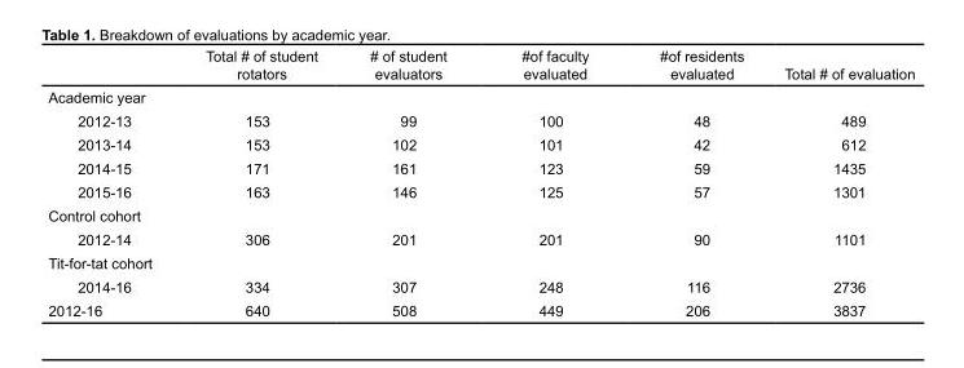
<table><thead><tr><td></td><td>Total # of student rotators</td><td># of student evaluators</td><td>#of faculty evaluated</td><td>#of residents evaluated</td><td>Total # of evaluation</td></tr></thead><tbody><tr><td colspan="6">Academic year</td></tr><tr><td>2012-13</td><td>153</td><td>99</td><td>100</td><td>48</td><td>489</td></tr><tr><td>2013-14</td><td>153</td><td>102</td><td>101</td><td>42</td><td>612</td></tr><tr><td>2014-15</td><td>171</td><td>161</td><td>123</td><td>59</td><td>1435</td></tr><tr><td>2015-16</td><td>163</td><td>146</td><td>125</td><td>57</td><td>1301</td></tr><tr><td colspan="6">Control cohort</td></tr><tr><td>2012-14</td><td>306</td><td>201</td><td>201</td><td>90</td><td>1101</td></tr><tr><td colspan="6">Tit-for-tat cohort</td></tr><tr><td>2014-16</td><td>334</td><td>307</td><td>248</td><td>116</td><td>2736</td></tr><tr><td>2012-16</td><td>640</td><td>508</td><td>449</td><td>206</td><td>3837</td></tr></tbody></table>